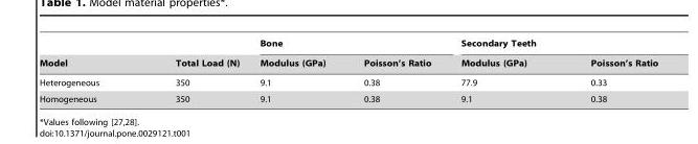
<table><thead><tr><td rowspan="2">Model</td><td rowspan="2">Total Load (N)</td><td colspan="2">Bone</td><td colspan="2">Secondary Teeth</td></tr><tr><td>Modulus (GPa)</td><td>Poisson’s Ratio</td><td>Modulus (GPa)</td><td>Poisson’s Ratio</td></tr></thead><tbody><tr><td>Heterogeneous</td><td>350</td><td>9.1</td><td>0.38</td><td>77.9</td><td>0.33</td></tr><tr><td>Homogeneous</td><td>350</td><td>9.1</td><td>0.38</td><td>9.1</td><td>0.38</td></tr></tbody></table>